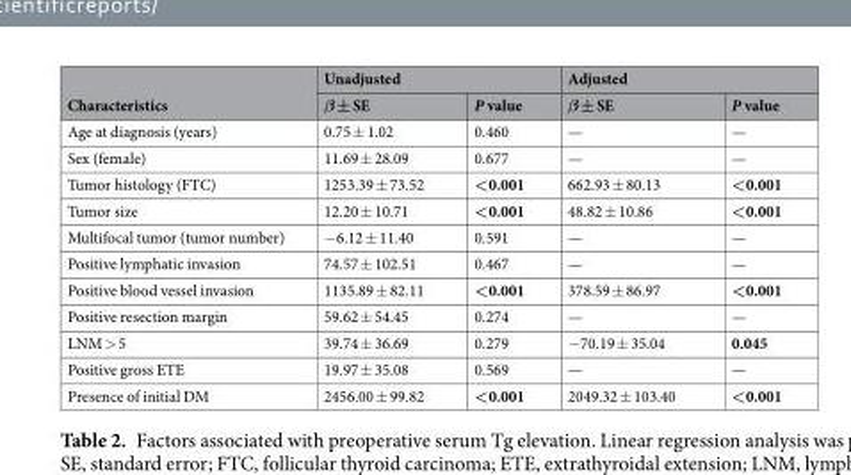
<table><thead><tr><td rowspan="2">Characteristics</td><td colspan="2">Unadjusted</td><td colspan="2">Adjusted</td></tr><tr><td>β ± SE</td><td>P value</td><td>β ± SE</td><td>P value</td></tr></thead><tbody><tr><td>Age at diagnosis (years)</td><td>0.75 ± 1.02</td><td>0.460</td><td>—</td><td>—</td></tr><tr><td>Sex (female)</td><td>11.69 ± 28.09</td><td>0.677</td><td>—</td><td>—</td></tr><tr><td>Tumor histology (FTC)</td><td>1253.39 ± 73.52</td><td>&lt;0.001</td><td>662.93 ± 80.13</td><td>&lt;0.001</td></tr><tr><td>Tumor size</td><td>12.20 ± 10.71</td><td>&lt;0.001</td><td>48.82 ± 10.86</td><td>&lt;0.001</td></tr><tr><td>Multifocal tumor (tumor number)</td><td>−6.12 ± 11.40</td><td>0.591</td><td>—</td><td>—</td></tr><tr><td>Positive lymphatic invasion</td><td>74.57 ± 102.51</td><td>0.467</td><td>—</td><td>—</td></tr><tr><td>Positive blood vessel invasion</td><td>1135.89 ± 82.11</td><td>&lt;0.001</td><td>378.59 ± 86.97</td><td>&lt;0.001</td></tr><tr><td>Positive resection margin</td><td>59.62 ± 54.45</td><td>0.274</td><td>—</td><td>—</td></tr><tr><td>LNM &gt; 5</td><td>39.74 ± 36.69</td><td>0.279</td><td>−70.19 ± 35.04</td><td>0.045</td></tr><tr><td>Positive gross ETE</td><td>19.97 ± 35.08</td><td>0.569</td><td>—</td><td>—</td></tr><tr><td>Presence of initial DM</td><td>2456.00 ± 99.82</td><td>&lt;0.001</td><td>2049.32 ± 103.40</td><td>&lt;0.001</td></tr></tbody></table>